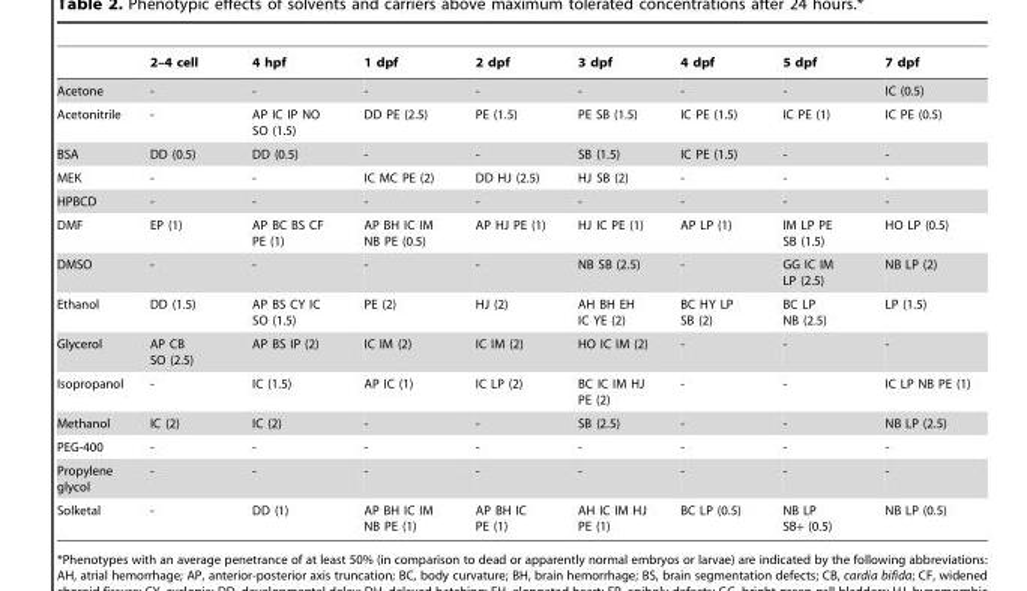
<table><thead><tr><td></td><td>2–4 cell</td><td>4 hpf</td><td>1 dpf</td><td>2 dpf</td><td>3 dpf</td><td>4 dpf</td><td>5 dpf</td><td>7 dpf</td></tr></thead><tbody><tr><td>Acetone</td><td>-</td><td>-</td><td>-</td><td>-</td><td>-</td><td>-</td><td>-</td><td>IC (0.5)</td></tr><tr><td>Acetonitrile</td><td>-</td><td>AP IC IP NO SO (1.5)</td><td>DD PE (2.5)</td><td>PE (1.5)</td><td>PE SB (1.5)</td><td>IC PE (1.5)</td><td>IC PE (1)</td><td>IC PE (0.5)</td></tr><tr><td>BSA</td><td>DD (0.5)</td><td>DD (0.5)</td><td>-</td><td>-</td><td>SB (1.5)</td><td>IC PE (1.5)</td><td>-</td><td>-</td></tr><tr><td>MEK</td><td>-</td><td>-</td><td>IC MC PE (2)</td><td>DD HJ (2.5)</td><td>HJ SB (2)</td><td>-</td><td>-</td><td>-</td></tr><tr><td>HPBCD</td><td>-</td><td>-</td><td>-</td><td>-</td><td>-</td><td>-</td><td>-</td><td>-</td></tr><tr><td>DMF</td><td>EP (1)</td><td>AP BC BS CF PE (1)</td><td>AP BH IC IM NB PE (0.5)</td><td>AP HJ PE (1)</td><td>HJ IC PE (1)</td><td>AP LP (1)</td><td>IM LP PE SB (1.5)</td><td>HO LP (0.5)</td></tr><tr><td>DMSO</td><td>-</td><td>-</td><td>-</td><td>-</td><td>NB SB (2.5)</td><td>-</td><td>GG IC IM LP (2.5)</td><td>NB LP (2)</td></tr><tr><td>Ethanol</td><td>DD (1.5)</td><td>AP BS CY IC SO (1.5)</td><td>PE (2)</td><td>HJ (2)</td><td>AH BH EH IC YE (2)</td><td>BC HY LP SB (2)</td><td>BC LP NB (2.5)</td><td>LP (1.5)</td></tr><tr><td>Glycerol</td><td>AP CB SO (2.5)</td><td>AP BS IP (2)</td><td>IC IM (2)</td><td>IC IM (2)</td><td>HO IC IM (2)</td><td>-</td><td>-</td><td>-</td></tr><tr><td>Isopropanol</td><td>-</td><td>IC (1.5)</td><td>AP IC (1)</td><td>IC LP (2)</td><td>BC IC IM HJ PE (2)</td><td>-</td><td>-</td><td>IC LP NB PE (1)</td></tr><tr><td>Methanol</td><td>IC (2)</td><td>IC (2)</td><td>-</td><td>-</td><td>SB (2.5)</td><td>-</td><td>-</td><td>NB LP (2.5)</td></tr><tr><td>PEG-400</td><td>-</td><td>-</td><td>-</td><td>-</td><td>-</td><td>-</td><td>-</td><td>-</td></tr><tr><td>Propylene glycol</td><td>-</td><td>-</td><td>-</td><td>-</td><td>-</td><td>-</td><td>-</td><td>-</td></tr><tr><td>Solketal</td><td>-</td><td>DD (1)</td><td>AP BH IC IM NB PE (1)</td><td>AP BH IC PE (1)</td><td>AH IC IM HJ PE (1)</td><td>BC LP (0.5)</td><td>NB LP SB+ (0.5)</td><td>NB LP (0.5)</td></tr></tbody></table>